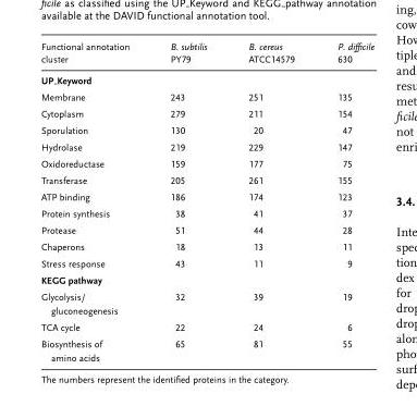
<table><thead><tr><td>Functional annotation cluster</td><td>B. subtilis PY79</td><td>B. cereus ATCC14579</td><td>P. difficile 630</td></tr></thead><tbody><tr><td colspan="4">UP Keyword</td></tr><tr><td>Membrane</td><td>243</td><td>251</td><td>135</td></tr><tr><td>Cytoplasm</td><td>279</td><td>211</td><td>154</td></tr><tr><td>Sporulation</td><td>130</td><td>20</td><td>47</td></tr><tr><td>Hydrolase</td><td>219</td><td>229</td><td>147</td></tr><tr><td>Oxidoreductase</td><td>159</td><td>177</td><td>75</td></tr><tr><td>Transferase</td><td>205</td><td>261</td><td>155</td></tr><tr><td>ATP binding</td><td>186</td><td>174</td><td>123</td></tr><tr><td>Protein synthesis</td><td>38</td><td>41</td><td>37</td></tr><tr><td>Protease</td><td>51</td><td>44</td><td>28</td></tr><tr><td>Chaperons</td><td>18</td><td>13</td><td>11</td></tr><tr><td>Stress response</td><td>43</td><td>11</td><td>9</td></tr><tr><td colspan="4">KEGG pathway</td></tr><tr><td>Glycolysis/ gluconeogenesis</td><td>32</td><td>39</td><td>19</td></tr><tr><td>TCA cycle</td><td>22</td><td>24</td><td>6</td></tr><tr><td>Biosynthesis of amino acids</td><td>65</td><td>81</td><td>55</td></tr></tbody></table>